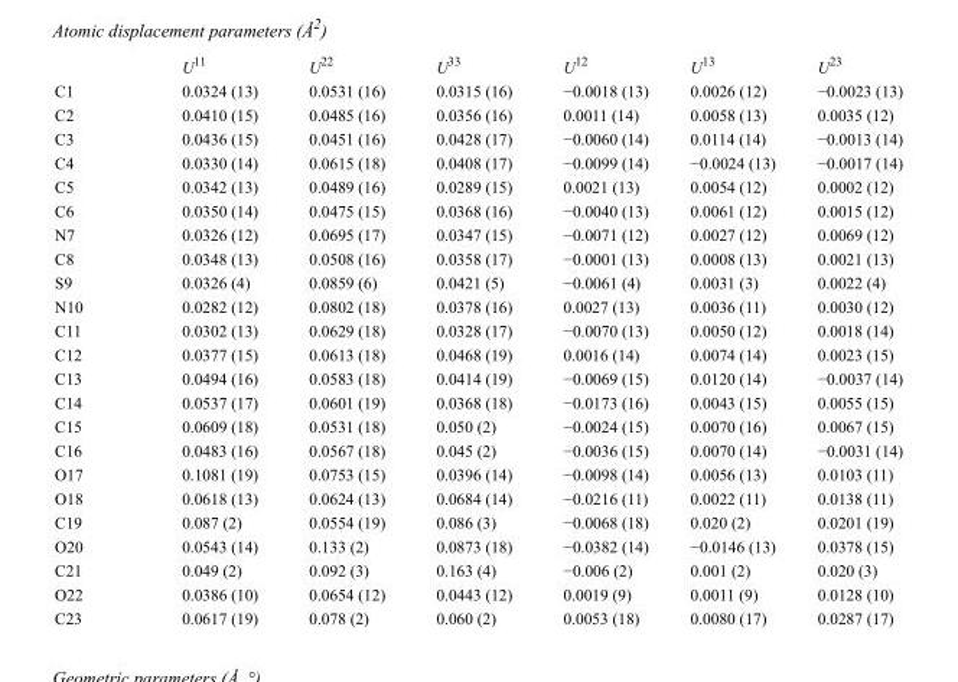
<table><thead><tr><td></td><td>U<sup>11</sup></td><td>U<sup>22</sup></td><td>U<sup>33</sup></td><td>U<sup>12</sup></td><td>U<sup>13</sup></td><td>U<sup>23</sup></td></tr></thead><tbody><tr><td>C1</td><td>0.0324 (13)</td><td>0.0531 (16)</td><td>0.0315 (16)</td><td>−0.0018 (13)</td><td>0.0026 (12)</td><td>−0.0023 (13)</td></tr><tr><td>C2</td><td>0.0410 (15)</td><td>0.0485 (16)</td><td>0.0356 (16)</td><td>0.0011 (14)</td><td>0.0058 (13)</td><td>0.0035 (12)</td></tr><tr><td>C3</td><td>0.0436 (15)</td><td>0.0451 (16)</td><td>0.0428 (17)</td><td>−0.0060 (14)</td><td>0.0114 (14)</td><td>−0.0013 (14)</td></tr><tr><td>C4</td><td>0.0330 (14)</td><td>0.0615 (18)</td><td>0.0408 (17)</td><td>−0.0099 (14)</td><td>−0.0024 (13)</td><td>−0.0017 (14)</td></tr><tr><td>C5</td><td>0.0342 (13)</td><td>0.0489 (16)</td><td>0.0289 (15)</td><td>0.0021 (13)</td><td>0.0054 (12)</td><td>0.0002 (12)</td></tr><tr><td>C6</td><td>0.0350 (14)</td><td>0.0475 (15)</td><td>0.0368 (16)</td><td>−0.0040 (13)</td><td>0.0061 (12)</td><td>0.0015 (12)</td></tr><tr><td>N7</td><td>0.0326 (12)</td><td>0.0695 (17)</td><td>0.0347 (15)</td><td>−0.0071 (12)</td><td>0.0027 (12)</td><td>0.0069 (12)</td></tr><tr><td>C8</td><td>0.0348 (13)</td><td>0.0508 (16)</td><td>0.0358 (17)</td><td>−0.0001 (13)</td><td>0.0008 (13)</td><td>0.0021 (13)</td></tr><tr><td>S9</td><td>0.0326 (4)</td><td>0.0859 (6)</td><td>0.0421 (5)</td><td>−0.0061 (4)</td><td>0.0031 (3)</td><td>0.0022 (4)</td></tr><tr><td>N10</td><td>0.0282 (12)</td><td>0.0802 (18)</td><td>0.0378 (16)</td><td>0.0027 (13)</td><td>0.0036 (11)</td><td>0.0030 (12)</td></tr><tr><td>C11</td><td>0.0302 (13)</td><td>0.0629 (18)</td><td>0.0328 (17)</td><td>−0.0070 (13)</td><td>0.0050 (12)</td><td>0.0018 (14)</td></tr><tr><td>C12</td><td>0.0377 (15)</td><td>0.0613 (18)</td><td>0.0468 (19)</td><td>0.0016 (14)</td><td>0.0074 (14)</td><td>0.0023 (15)</td></tr><tr><td>C13</td><td>0.0494 (16)</td><td>0.0583 (18)</td><td>0.0414 (19)</td><td>−0.0069 (15)</td><td>0.0120 (14)</td><td>−0.0037 (14)</td></tr><tr><td>C14</td><td>0.0537 (17)</td><td>0.0601 (19)</td><td>0.0368 (18)</td><td>−0.0173 (16)</td><td>0.0043 (15)</td><td>0.0055 (15)</td></tr><tr><td>C15</td><td>0.0609 (18)</td><td>0.0531 (18)</td><td>0.050 (2)</td><td>−0.0024 (15)</td><td>0.0070 (16)</td><td>0.0067 (15)</td></tr><tr><td>C16</td><td>0.0483 (16)</td><td>0.0567 (18)</td><td>0.045 (2)</td><td>−0.0036 (15)</td><td>0.0070 (14)</td><td>−0.0031 (14)</td></tr><tr><td>O17</td><td>0.1081 (19)</td><td>0.0753 (15)</td><td>0.0396 (14)</td><td>−0.0098 (14)</td><td>0.0056 (13)</td><td>0.0103 (11)</td></tr><tr><td>O18</td><td>0.0618 (13)</td><td>0.0624 (13)</td><td>0.0684 (14)</td><td>−0.0216 (11)</td><td>0.0022 (11)</td><td>0.0138 (11)</td></tr><tr><td>C19</td><td>0.087 (2)</td><td>0.0554 (19)</td><td>0.086 (3)</td><td>−0.0068 (18)</td><td>0.020 (2)</td><td>0.0201 (19)</td></tr><tr><td>O20</td><td>0.0543 (14)</td><td>0.133 (2)</td><td>0.0873 (18)</td><td>−0.0382 (14)</td><td>−0.0146 (13)</td><td>0.0378 (15)</td></tr><tr><td>C21</td><td>0.049 (2)</td><td>0.092 (3)</td><td>0.163 (4)</td><td>−0.006 (2)</td><td>0.001 (2)</td><td>0.020 (3)</td></tr><tr><td>O22</td><td>0.0386 (10)</td><td>0.0654 (12)</td><td>0.0443 (12)</td><td>0.0019 (9)</td><td>0.0011 (9)</td><td>0.0128 (10)</td></tr><tr><td>C23</td><td>0.0617 (19)</td><td>0.078 (2)</td><td>0.060 (2)</td><td>0.0053 (18)</td><td>0.0080 (17)</td><td>0.0287 (17)</td></tr></tbody></table>